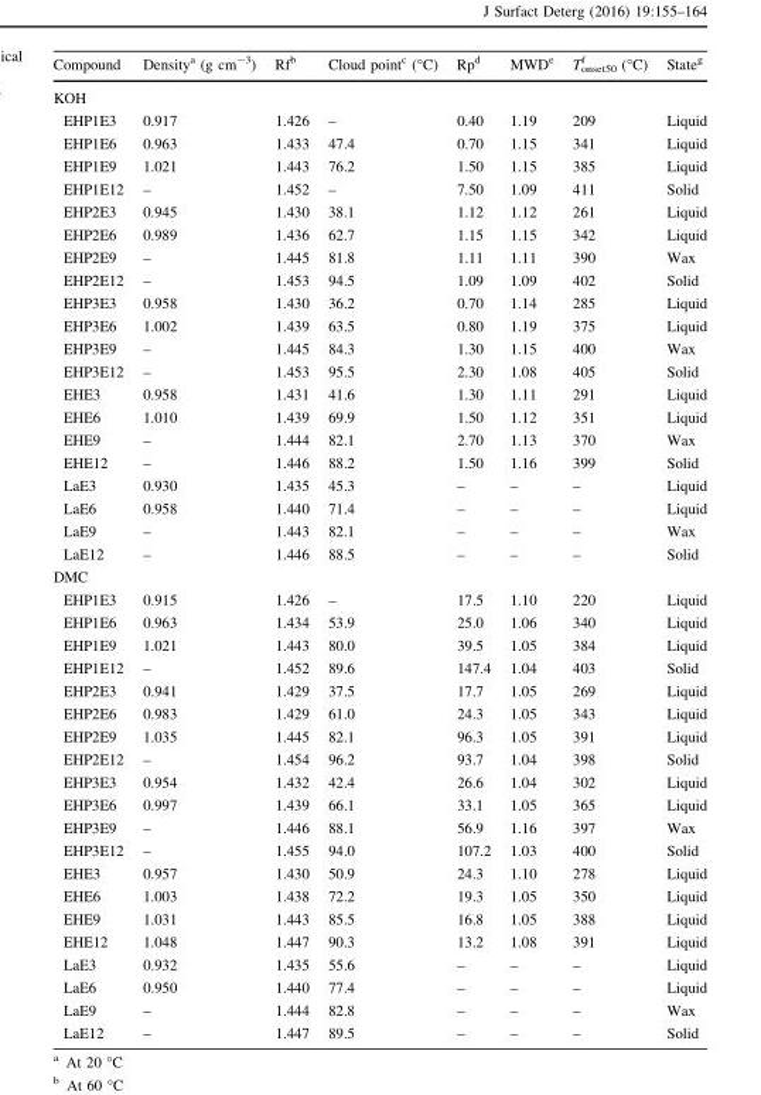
<table><thead><tr><td>Compound</td><td>Density<sup>a</sup> (g cm<sup>-3</sup>)</td><td>Rf<sup>b</sup></td><td>Cloud point<sup>c</sup> (°C)</td><td>Rp<sup>d</sup></td><td>MWD<sup>e</sup></td><td>T<sub>onset50</sub> <sup>f</sup> (°C)</td><td>State<sup>g</sup></td></tr></thead><tbody><tr><td colspan="8">KOH</td></tr><tr><td>EHP1E3</td><td>0.917</td><td>1.426</td><td>–</td><td>0.40</td><td>1.19</td><td>209</td><td>Liquid</td></tr><tr><td>EHP1E6</td><td>0.963</td><td>1.433</td><td>47.4</td><td>0.70</td><td>1.15</td><td>341</td><td>Liquid</td></tr><tr><td>EHP1E9</td><td>1.021</td><td>1.443</td><td>76.2</td><td>1.50</td><td>1.15</td><td>385</td><td>Liquid</td></tr><tr><td>EHP1E12</td><td>–</td><td>1.452</td><td>–</td><td>7.50</td><td>1.09</td><td>411</td><td>Solid</td></tr><tr><td>EHP2E3</td><td>0.945</td><td>1.430</td><td>38.1</td><td>1.12</td><td>1.12</td><td>261</td><td>Liquid</td></tr><tr><td>EHP2E6</td><td>0.989</td><td>1.436</td><td>62.7</td><td>1.15</td><td>1.15</td><td>342</td><td>Liquid</td></tr><tr><td>EHP2E9</td><td>–</td><td>1.445</td><td>81.8</td><td>1.11</td><td>1.11</td><td>390</td><td>Wax</td></tr><tr><td>EHP2E12</td><td>–</td><td>1.453</td><td>94.5</td><td>1.09</td><td>1.09</td><td>402</td><td>Solid</td></tr><tr><td>EHP3E3</td><td>0.958</td><td>1.430</td><td>36.2</td><td>0.70</td><td>1.14</td><td>285</td><td>Liquid</td></tr><tr><td>EHP3E6</td><td>1.002</td><td>1.439</td><td>63.5</td><td>0.80</td><td>1.19</td><td>375</td><td>Liquid</td></tr><tr><td>EHP3E9</td><td>–</td><td>1.445</td><td>84.3</td><td>1.30</td><td>1.15</td><td>400</td><td>Wax</td></tr><tr><td>EHP3E12</td><td>–</td><td>1.453</td><td>95.5</td><td>2.30</td><td>1.08</td><td>405</td><td>Solid</td></tr><tr><td>EHE3</td><td>0.958</td><td>1.431</td><td>41.6</td><td>1.30</td><td>1.11</td><td>291</td><td>Liquid</td></tr><tr><td>EHE6</td><td>1.010</td><td>1.439</td><td>69.9</td><td>1.50</td><td>1.12</td><td>351</td><td>Liquid</td></tr><tr><td>EHE9</td><td>–</td><td>1.444</td><td>82.1</td><td>2.70</td><td>1.13</td><td>370</td><td>Wax</td></tr><tr><td>EHE12</td><td>–</td><td>1.446</td><td>88.2</td><td>1.50</td><td>1.16</td><td>399</td><td>Solid</td></tr><tr><td>LaE3</td><td>0.930</td><td>1.435</td><td>45.3</td><td>–</td><td>–</td><td>–</td><td>Liquid</td></tr><tr><td>LaE6</td><td>0.958</td><td>1.440</td><td>71.4</td><td>–</td><td>–</td><td>–</td><td>Liquid</td></tr><tr><td>LaE9</td><td>–</td><td>1.443</td><td>82.1</td><td>–</td><td>–</td><td>–</td><td>Wax</td></tr><tr><td>LaE12</td><td>–</td><td>1.446</td><td>88.5</td><td>–</td><td>–</td><td>–</td><td>Solid</td></tr><tr><td colspan="8">DMC</td></tr><tr><td>EHP1E3</td><td>0.915</td><td>1.426</td><td>–</td><td>17.5</td><td>1.10</td><td>220</td><td>Liquid</td></tr><tr><td>EHP1E6</td><td>0.963</td><td>1.434</td><td>53.9</td><td>25.0</td><td>1.06</td><td>340</td><td>Liquid</td></tr><tr><td>EHP1E9</td><td>1.021</td><td>1.443</td><td>80.0</td><td>39.5</td><td>1.05</td><td>384</td><td>Liquid</td></tr><tr><td>EHP1E12</td><td>–</td><td>1.452</td><td>89.6</td><td>147.4</td><td>1.04</td><td>403</td><td>Solid</td></tr><tr><td>EHP2E3</td><td>0.941</td><td>1.429</td><td>37.5</td><td>17.7</td><td>1.05</td><td>269</td><td>Liquid</td></tr><tr><td>EHP2E6</td><td>0.983</td><td>1.429</td><td>61.0</td><td>24.3</td><td>1.05</td><td>343</td><td>Liquid</td></tr><tr><td>EHP2E9</td><td>1.035</td><td>1.445</td><td>82.1</td><td>96.3</td><td>1.05</td><td>391</td><td>Liquid</td></tr><tr><td>EHP2E12</td><td>–</td><td>1.454</td><td>96.2</td><td>93.7</td><td>1.04</td><td>398</td><td>Solid</td></tr><tr><td>EHP3E3</td><td>0.954</td><td>1.432</td><td>42.4</td><td>26.6</td><td>1.04</td><td>302</td><td>Liquid</td></tr><tr><td>EHP3E6</td><td>0.997</td><td>1.439</td><td>66.1</td><td>33.1</td><td>1.05</td><td>365</td><td>Liquid</td></tr><tr><td>EHP3E9</td><td>–</td><td>1.446</td><td>88.1</td><td>56.9</td><td>1.16</td><td>397</td><td>Wax</td></tr><tr><td>EHP3E12</td><td>–</td><td>1.455</td><td>94.0</td><td>107.2</td><td>1.03</td><td>400</td><td>Solid</td></tr><tr><td>EHE3</td><td>0.957</td><td>1.430</td><td>50.9</td><td>24.3</td><td>1.10</td><td>278</td><td>Liquid</td></tr><tr><td>EHE6</td><td>1.003</td><td>1.438</td><td>72.2</td><td>19.3</td><td>1.05</td><td>350</td><td>Liquid</td></tr><tr><td>EHE9</td><td>1.031</td><td>1.443</td><td>85.5</td><td>16.8</td><td>1.05</td><td>388</td><td>Liquid</td></tr><tr><td>EHE12</td><td>1.048</td><td>1.447</td><td>90.3</td><td>13.2</td><td>1.08</td><td>391</td><td>Liquid</td></tr><tr><td>LaE3</td><td>0.932</td><td>1.435</td><td>55.6</td><td>–</td><td>–</td><td>–</td><td>Liquid</td></tr><tr><td>LaE6</td><td>0.950</td><td>1.440</td><td>77.4</td><td>–</td><td>–</td><td>–</td><td>Liquid</td></tr><tr><td>LaE9</td><td>–</td><td>1.444</td><td>82.8</td><td>–</td><td>–</td><td>–</td><td>Wax</td></tr><tr><td>LaE12</td><td>–</td><td>1.447</td><td>89.5</td><td>–</td><td>–</td><td>–</td><td>Solid</td></tr></tbody></table>